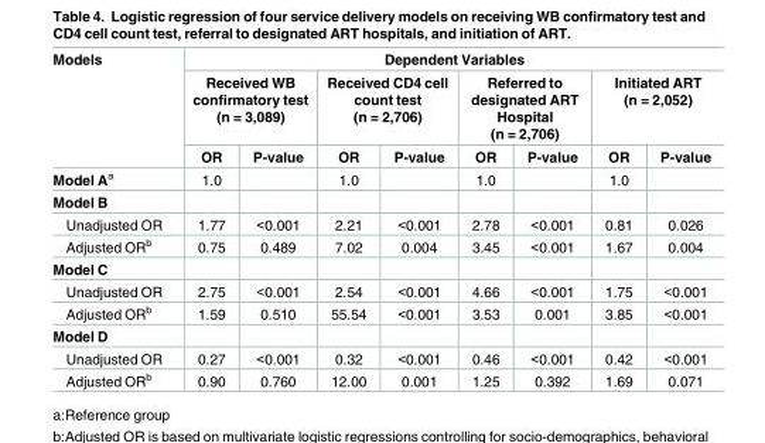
<table><thead><tr><td rowspan="3">Models</td><td colspan="8">Dependent Variables</td></tr><tr><td colspan="2">Received WB confirmatory test (n = 3,089)</td><td colspan="2">Received CD4 cell count test (n = 2,706)</td><td colspan="2">Referred to designated ART Hospital (n = 2,706)</td><td colspan="2">Initiated ART (n = 2,052)</td></tr><tr><td>OR</td><td>P-value</td><td>OR</td><td>P-value</td><td>OR</td><td>P-value</td><td>OR</td><td>P-value</td></tr></thead><tbody><tr><td>Model A<sup>a</sup></td><td>1.0</td><td></td><td>1.0</td><td></td><td>1.0</td><td></td><td>1.0</td><td></td></tr><tr><td colspan="9">Model B</td></tr><tr><td>Unadjusted OR</td><td>1.77</td><td>&lt;0.001</td><td>2.21</td><td>&lt;0.001</td><td>2.78</td><td>&lt;0.001</td><td>0.81</td><td>0.026</td></tr><tr><td>Adjusted OR<sup>b</sup></td><td>0.75</td><td>0.489</td><td>7.02</td><td>0.004</td><td>3.45</td><td>&lt;0.001</td><td>1.67</td><td>0.004</td></tr><tr><td colspan="9">Model C</td></tr><tr><td>Unadjusted OR</td><td>2.75</td><td>&lt;0.001</td><td>2.54</td><td>&lt;0.001</td><td>4.66</td><td>&lt;0.001</td><td>1.75</td><td>&lt;0.001</td></tr><tr><td>Adjusted OR<sup>b</sup></td><td>1.59</td><td>0.510</td><td>55.54</td><td>&lt;0.001</td><td>3.53</td><td>0.001</td><td>3.85</td><td>&lt;0.001</td></tr><tr><td colspan="9">Model D</td></tr><tr><td>Unadjusted OR</td><td>0.27</td><td>&lt;0.001</td><td>0.32</td><td>&lt;0.001</td><td>0.46</td><td>&lt;0.001</td><td>0.42</td><td>&lt;0.001</td></tr><tr><td>Adjusted OR<sup>b</sup></td><td>0.90</td><td>0.760</td><td>12.00</td><td>0.001</td><td>1.25</td><td>0.392</td><td>1.69</td><td>0.071</td></tr></tbody></table>